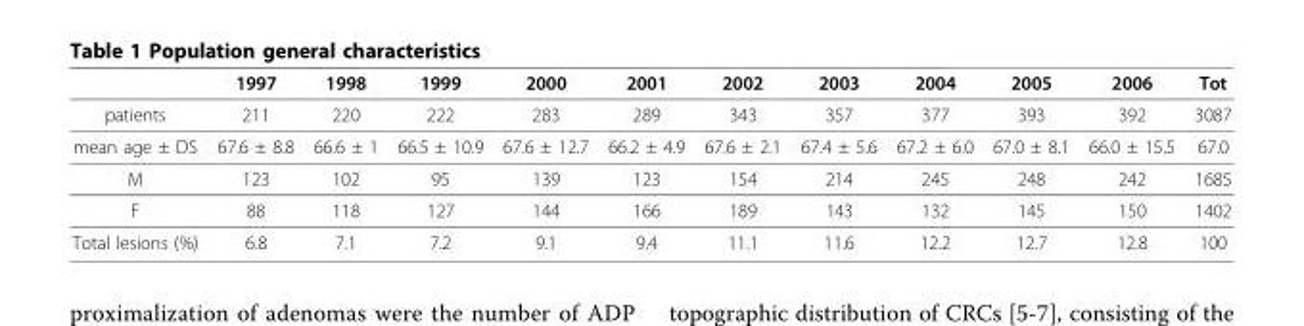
<table><thead><tr><td></td><td>1997</td><td>1998</td><td>1999</td><td>2000</td><td>2001</td><td>2002</td><td>2003</td><td>2004</td><td>2005</td><td>2006</td><td>Tot</td></tr></thead><tbody><tr><td>patients</td><td>211</td><td>220</td><td>222</td><td>283</td><td>289</td><td>343</td><td>357</td><td>377</td><td>393</td><td>392</td><td>3087</td></tr><tr><td>mean age ± DS</td><td>67.6 ± 8.8</td><td>66.6 ± 1</td><td>66.5 ± 10.9</td><td>67.6 ± 12.7</td><td>66.2 ± 4.9</td><td>67.6 ± 2.1</td><td>67.4 ± 5.6</td><td>67.2 ± 6.0</td><td>67.0 ± 8.1</td><td>66.0 ± 15.5</td><td>67.0</td></tr><tr><td>M</td><td>123</td><td>102</td><td>95</td><td>139</td><td>123</td><td>154</td><td>214</td><td>245</td><td>248</td><td>242</td><td>1685</td></tr><tr><td>F</td><td>88</td><td>118</td><td>127</td><td>144</td><td>166</td><td>189</td><td>143</td><td>132</td><td>145</td><td>150</td><td>1402</td></tr><tr><td>Total lesions (%)</td><td>6.8</td><td>7.1</td><td>7.2</td><td>9.1</td><td>9.4</td><td>11.1</td><td>11.6</td><td>12.2</td><td>12.7</td><td>12.8</td><td>100</td></tr></tbody></table>